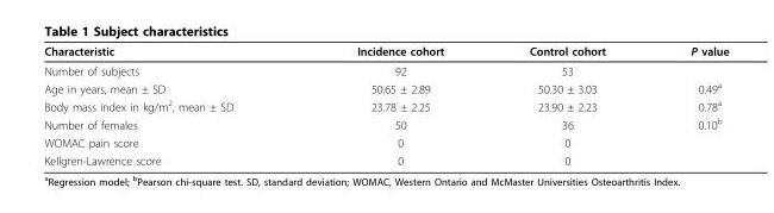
<table><thead><tr><td>Characteristic</td><td>Incidence cohort</td><td>Control cohort</td><td>P value</td></tr></thead><tbody><tr><td>Number of subjects</td><td>92</td><td>53</td><td></td></tr><tr><td>Age in years, mean ± SD</td><td>50.65 ± 2.89</td><td>50.30 ± 3.03</td><td>0.49<sup>a</sup></td></tr><tr><td>Body mass index in kg/m<sup>2</sup>, mean ± SD</td><td>23.78 ± 2.25</td><td>23.90 ± 2.23</td><td>0.78<sup>a</sup></td></tr><tr><td>Number of females</td><td>50</td><td>36</td><td>0.10<sup>b</sup></td></tr><tr><td>WOMAC pain score</td><td>0</td><td>0</td><td></td></tr><tr><td>Kellgren-Lawrence score</td><td>0</td><td>0</td><td></td></tr></tbody></table>